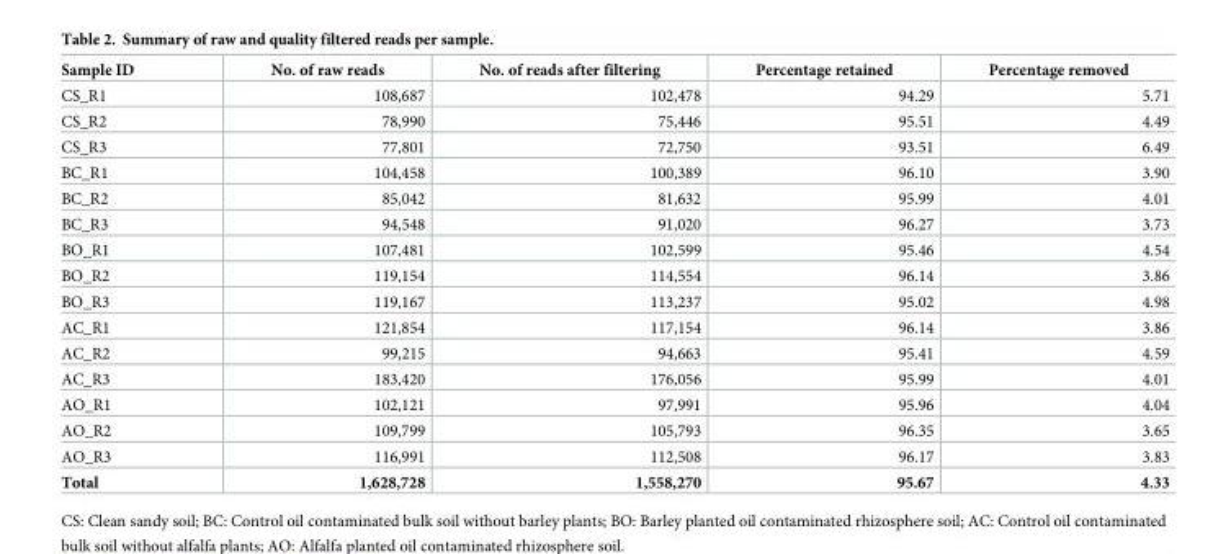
<table><thead><tr><td>Sample ID</td><td>No. of raw reads</td><td>No. of reads after filtering</td><td>Percentage retained</td><td>Percentage removed</td></tr></thead><tbody><tr><td>CS_R1</td><td>108,687</td><td>102,478</td><td>94.29</td><td>5.71</td></tr><tr><td>CS_R2</td><td>78,990</td><td>75,446</td><td>95.51</td><td>4.49</td></tr><tr><td>CS_R3</td><td>77,801</td><td>72,750</td><td>93.51</td><td>6.49</td></tr><tr><td>BC_R1</td><td>104,458</td><td>100,389</td><td>96.10</td><td>3.90</td></tr><tr><td>BC_R2</td><td>85,042</td><td>81,632</td><td>95.99</td><td>4.01</td></tr><tr><td>BC_R3</td><td>94,548</td><td>91,020</td><td>96.27</td><td>3.73</td></tr><tr><td>BO_R1</td><td>107,481</td><td>102,599</td><td>95.46</td><td>4.54</td></tr><tr><td>BO_R2</td><td>119,154</td><td>114,554</td><td>96.14</td><td>3.86</td></tr><tr><td>BO_R3</td><td>119,167</td><td>113,237</td><td>95.02</td><td>4.98</td></tr><tr><td>AC_R1</td><td>121,854</td><td>117,154</td><td>96.14</td><td>3.86</td></tr><tr><td>AC_R2</td><td>99,215</td><td>94,663</td><td>95.41</td><td>4.59</td></tr><tr><td>AC_R3</td><td>183,420</td><td>176,056</td><td>95.99</td><td>4.01</td></tr><tr><td>AO_R1</td><td>102,121</td><td>97,991</td><td>95.96</td><td>4.04</td></tr><tr><td>AO_R2</td><td>109,799</td><td>105,793</td><td>96.35</td><td>3.65</td></tr><tr><td>AO_R3</td><td>116,991</td><td>112,508</td><td>96.17</td><td>3.83</td></tr><tr><td>Total</td><td>1,628,728</td><td>1,558,270</td><td>95.67</td><td>4.33</td></tr></tbody></table>